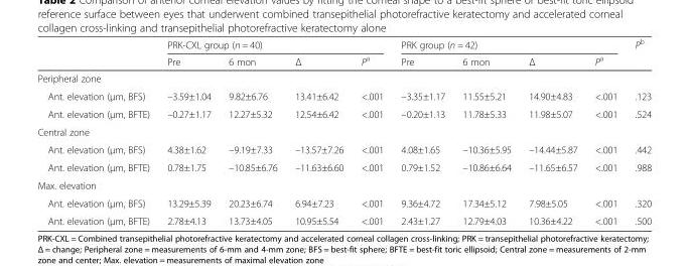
<table><thead><tr><td rowspan="2"></td><td colspan="4">PRK-CXL group (n = 40)</td><td colspan="4">PRK group (n = 42)</td><td rowspan="2">P<sup>b</sup></td></tr><tr><td>Pre</td><td>6 mon</td><td>Δ</td><td>P<sup>a</sup></td><td>Pre</td><td>6 mon</td><td>Δ</td><td>P<sup>a</sup></td></tr></thead><tbody><tr><td colspan="10">Peripheral zone</td></tr><tr><td>Ant. elevation (μm, BFS)</td><td>–3.59±1.04</td><td>9.82±6.76</td><td>13.41±6.42</td><td>&lt;.001</td><td>–3.35±1.17</td><td>11.55±5.21</td><td>14.90±4.83</td><td>&lt;.001</td><td>.123</td></tr><tr><td>Ant. elevation (μm, BFTE)</td><td>–0.27±1.17</td><td>12.27±5.32</td><td>12.54±6.42</td><td>&lt;.001</td><td>–0.20±1.13</td><td>11.78±5.33</td><td>11.98±5.07</td><td>&lt;.001</td><td>.524</td></tr><tr><td colspan="10">Central zone</td></tr><tr><td>Ant. elevation (μm, BFS)</td><td>4.38±1.62</td><td>–9.19±7.33</td><td>–13.57±7.26</td><td>&lt;.001</td><td>4.08±1.65</td><td>–10.36±5.95</td><td>–14.44±5.87</td><td>&lt;.001</td><td>.442</td></tr><tr><td>Ant. elevation (μm, BFTE)</td><td>0.78±1.75</td><td>–10.85±6.76</td><td>–11.63±6.60</td><td>&lt;.001</td><td>0.79±1.52</td><td>–10.86±6.64</td><td>–11.65±6.57</td><td>&lt;.001</td><td>.988</td></tr><tr><td colspan="10">Max. elevation</td></tr><tr><td>Ant. elevation (μm, BFS)</td><td>13.29±5.39</td><td>20.23±6.74</td><td>6.94±7.23</td><td>&lt;.001</td><td>9.36±4.72</td><td>17.34±5.12</td><td>7.98±5.05</td><td>&lt;.001</td><td>.320</td></tr><tr><td>Ant. elevation (μm, BFTE)</td><td>2.78±4.13</td><td>13.73±4.05</td><td>10.95±5.54</td><td>&lt;.001</td><td>2.43±1.27</td><td>12.79±4.03</td><td>10.36±4.22</td><td>&lt;.001</td><td>.500</td></tr></tbody></table>